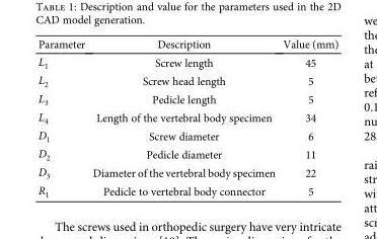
<table><thead><tr><td>Parameter</td><td>Description</td><td>Value (mm)</td></tr></thead><tbody><tr><td>L<sub>1</sub></td><td>Screw length</td><td>45</td></tr><tr><td>L<sub>2</sub></td><td>Screw head length</td><td>5</td></tr><tr><td>L<sub>3</sub></td><td>Pedicle length</td><td>5</td></tr><tr><td>L<sub>4</sub></td><td>Length of the vertebral body specimen</td><td>34</td></tr><tr><td>D<sub>1</sub></td><td>Screw diameter</td><td>6</td></tr><tr><td>D<sub>2</sub></td><td>Pedicle diameter</td><td>11</td></tr><tr><td>D<sub>3</sub></td><td>Diameter of the vertebral body specimen</td><td>22</td></tr><tr><td>R<sub>1</sub></td><td>Pedicle to vertebral body connector</td><td>5</td></tr></tbody></table>